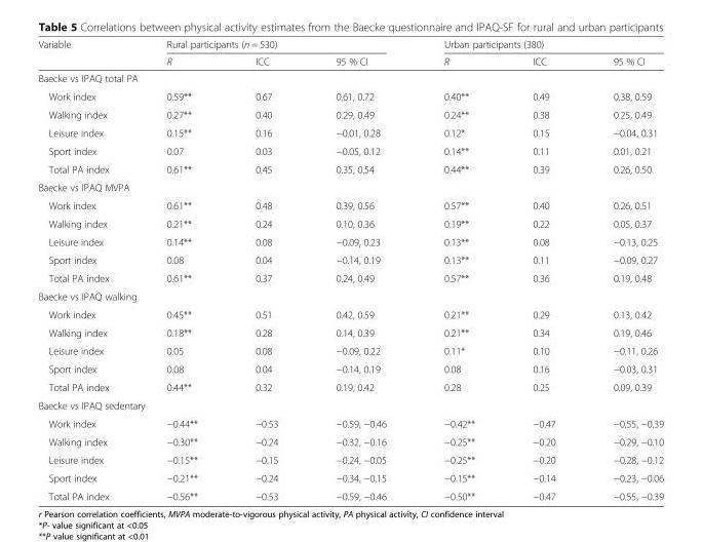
<table><thead><tr><td rowspan="2">Variable</td><td colspan="3">Rural participants (n = 530)</td><td colspan="3">Urban participants (380)</td></tr><tr><td>R</td><td>ICC</td><td>95 % CI</td><td>R</td><td>ICC</td><td>95 % CI</td></tr></thead><tbody><tr><td colspan="7">Baecke vs IPAQ total PA</td></tr><tr><td>Work index</td><td>0.59**</td><td>0.67</td><td>0.61, 0.72</td><td>0.40**</td><td>0.49</td><td>0.38, 0.59</td></tr><tr><td>Walking index</td><td>0.27**</td><td>0.40</td><td>0.29, 0.49</td><td>0.24**</td><td>0.38</td><td>0.25, 0.49</td></tr><tr><td>Leisure index</td><td>0.15**</td><td>0.16</td><td>−0.01, 0.28</td><td>0.12*</td><td>0.15</td><td>−0.04, 0.31</td></tr><tr><td>Sport index</td><td>0.07</td><td>0.03</td><td>−0.05, 0.12</td><td>0.14**</td><td>0.11</td><td>0.01, 0.21</td></tr><tr><td>Total PA index</td><td>0.61**</td><td>0.45</td><td>0.35, 0.54</td><td>0.44**</td><td>0.39</td><td>0.26, 0.50</td></tr><tr><td colspan="7">Baecke vs IPAQ MVPA</td></tr><tr><td>Work index</td><td>0.61**</td><td>0.48</td><td>0.39, 0.56</td><td>0.57**</td><td>0.40</td><td>0.26, 0.51</td></tr><tr><td>Walking index</td><td>0.21**</td><td>0.24</td><td>0.10, 0.36</td><td>0.19**</td><td>0.22</td><td>0.05, 0.37</td></tr><tr><td>Leisure index</td><td>0.14**</td><td>0.08</td><td>−0.09, 0.23</td><td>0.13**</td><td>0.08</td><td>−0.13, 0.25</td></tr><tr><td>Sport index</td><td>0.08</td><td>0.04</td><td>−0.14, 0.19</td><td>0.13**</td><td>0.11</td><td>−0.09, 0.27</td></tr><tr><td>Total PA index</td><td>0.61**</td><td>0.37</td><td>0.24, 0.49</td><td>0.57**</td><td>0.36</td><td>0.19, 0.48</td></tr><tr><td colspan="7">Baecke vs IPAQ walking</td></tr><tr><td>Work index</td><td>0.45**</td><td>0.51</td><td>0.42, 0.59</td><td>0.21**</td><td>0.29</td><td>0.13, 0.42</td></tr><tr><td>Walking index</td><td>0.18**</td><td>0.28</td><td>0.14, 0.39</td><td>0.21**</td><td>0.34</td><td>0.19, 0.46</td></tr><tr><td>Leisure index</td><td>0.05</td><td>0.08</td><td>−0.09, 0.22</td><td>0.11*</td><td>0.10</td><td>−0.11, 0.26</td></tr><tr><td>Sport index</td><td>0.08</td><td>0.04</td><td>−0.14, 0.19</td><td>0.08</td><td>0.16</td><td>−0.03, 0.31</td></tr><tr><td>Total PA index</td><td>0.44**</td><td>0.32</td><td>0.19, 0.42</td><td>0.28</td><td>0.25</td><td>0.09, 0.39</td></tr><tr><td colspan="7">Baecke vs IPAQ sedentary</td></tr><tr><td>Work index</td><td>−0.44**</td><td>−0.53</td><td>−0.59, −0.46</td><td>−0.42**</td><td>−0.47</td><td>−0.55, −0.39</td></tr><tr><td>Walking index</td><td>−0.30**</td><td>−0.24</td><td>−0.32, −0.16</td><td>−0.25**</td><td>−0.20</td><td>−0.29, −0.10</td></tr><tr><td>Leisure index</td><td>−0.15**</td><td>−0.15</td><td>−0.24, −0.05</td><td>−0.25**</td><td>−0.20</td><td>−0.28, −0.12</td></tr><tr><td>Sport index</td><td>−0.21**</td><td>−0.24</td><td>−0.34, −0.15</td><td>−0.15**</td><td>−0.14</td><td>−0.23, −0.06</td></tr><tr><td>Total PA index</td><td>−0.56**</td><td>−0.53</td><td>−0.59, −0.46</td><td>−0.50**</td><td>−0.47</td><td>−0.55, −0.39</td></tr></tbody></table>